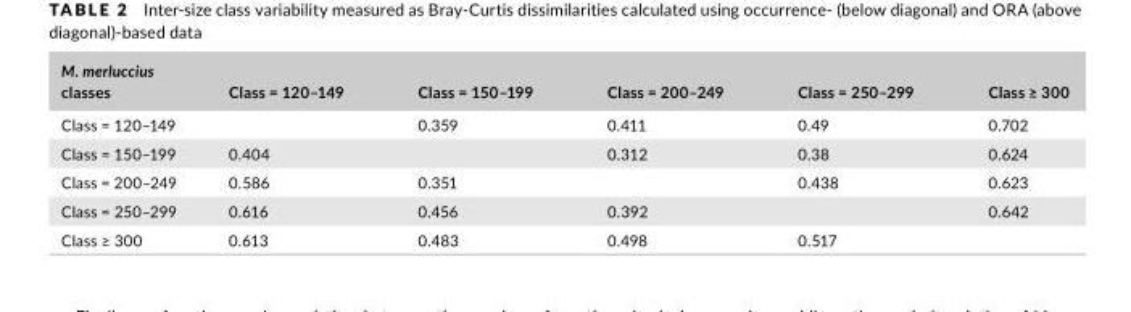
<table><thead><tr><td>M. merluccius classes</td><td>Class = 120–149</td><td>Class = 150–199</td><td>Class = 200–249</td><td>Class = 250–299</td><td>Class ≥ 300</td></tr></thead><tbody><tr><td>Class = 120–149</td><td></td><td>0.359</td><td>0.411</td><td>0.49</td><td>0.702</td></tr><tr><td>Class = 150–199</td><td>0.404</td><td></td><td>0.312</td><td>0.38</td><td>0.624</td></tr><tr><td>Class = 200–249</td><td>0.586</td><td>0.351</td><td></td><td>0.438</td><td>0.623</td></tr><tr><td>Class = 250–299</td><td>0.616</td><td>0.456</td><td>0.392</td><td></td><td>0.642</td></tr><tr><td>Class ≥ 300</td><td>0.613</td><td>0.483</td><td>0.498</td><td>0.517</td><td></td></tr></tbody></table>